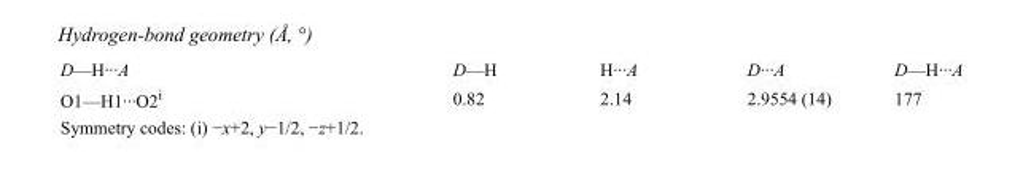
<table><tbody><tr><td>D—H···A</td><td>D—H</td><td>H···A</td><td>D···A</td><td>D—H···A</td></tr><tr><td>O1—H1···O2<sup>i</sup></td><td>0.82</td><td>2.14</td><td>2.9554 (14)</td><td>177</td></tr></tbody></table>